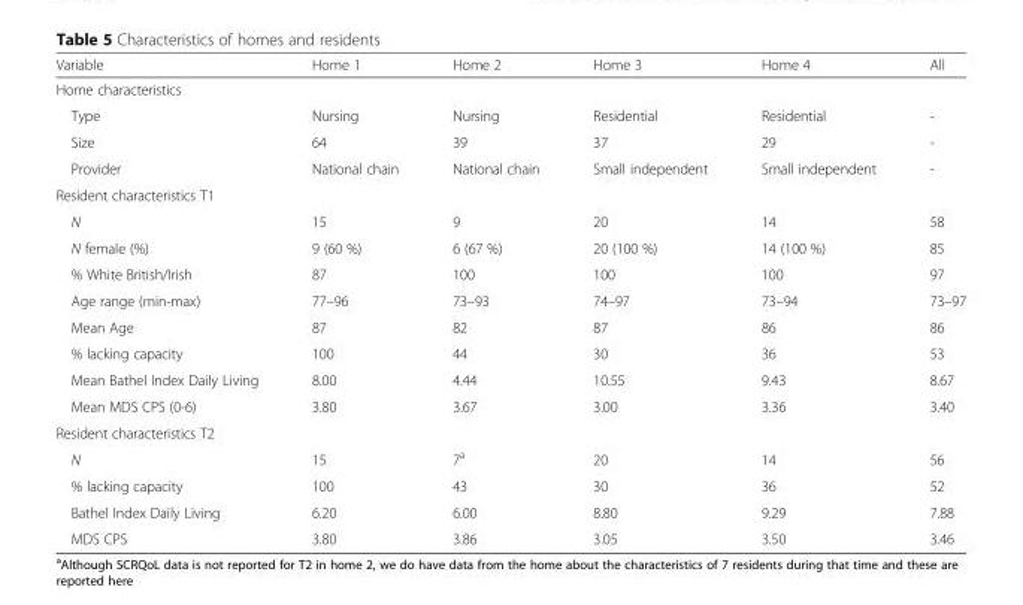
<table><thead><tr><td>Variable</td><td>Home 1</td><td>Home 2</td><td>Home 3</td><td>Home 4</td><td>All</td></tr></thead><tbody><tr><td colspan="6">Home characteristics</td></tr><tr><td>Type</td><td>Nursing</td><td>Nursing</td><td>Residential</td><td>Residential</td><td>-</td></tr><tr><td>Size</td><td>64</td><td>39</td><td>37</td><td>29</td><td>-</td></tr><tr><td>Provider</td><td>National chain</td><td>National chain</td><td>Small independent</td><td>Small independent</td><td>-</td></tr><tr><td colspan="6">Resident characteristics T1</td></tr><tr><td>N</td><td>15</td><td>9</td><td>20</td><td>14</td><td>58</td></tr><tr><td>N female (%)</td><td>9 (60 %)</td><td>6 (67 %)</td><td>20 (100 %)</td><td>14 (100 %)</td><td>85</td></tr><tr><td>% White British/Irish</td><td>87</td><td>100</td><td>100</td><td>100</td><td>97</td></tr><tr><td>Age range (min-max)</td><td>77–96</td><td>73–93</td><td>74–97</td><td>73–94</td><td>73–97</td></tr><tr><td>Mean Age</td><td>87</td><td>82</td><td>87</td><td>86</td><td>86</td></tr><tr><td>% lacking capacity</td><td>100</td><td>44</td><td>30</td><td>36</td><td>53</td></tr><tr><td>Mean Bathel Index Daily Living</td><td>8.00</td><td>4.44</td><td>10.55</td><td>9.43</td><td>8.67</td></tr><tr><td>Mean MDS CPS (0-6)</td><td>3.80</td><td>3.67</td><td>3.00</td><td>3.36</td><td>3.40</td></tr><tr><td colspan="6">Resident characteristics T2</td></tr><tr><td>N</td><td>15</td><td>7<sup>a</sup></td><td>20</td><td>14</td><td>56</td></tr><tr><td>% lacking capacity</td><td>100</td><td>43</td><td>30</td><td>36</td><td>52</td></tr><tr><td>Bathel Index Daily Living</td><td>6.20</td><td>6.00</td><td>8.80</td><td>9.29</td><td>7.88</td></tr><tr><td>MDS CPS</td><td>3.80</td><td>3.86</td><td>3.05</td><td>3.50</td><td>3.46</td></tr></tbody></table>